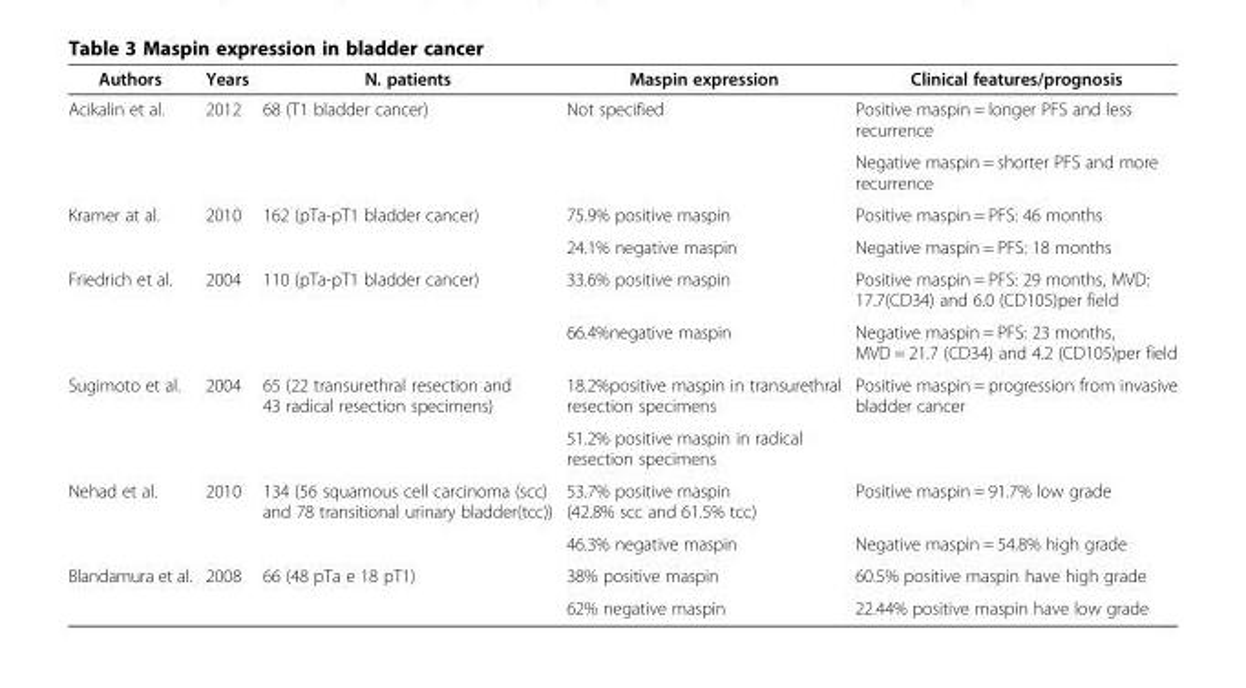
<table><thead><tr><td>Authors</td><td>Years</td><td>N. patients</td><td>Maspin expression</td><td>Clinical features/prognosis</td></tr></thead><tbody><tr><td rowspan="2">Acikalin et al.</td><td>2012</td><td>68 (T1 bladder cancer)</td><td>Not specified</td><td>Positive maspin = longer PFS and less recurrence</td></tr><tr><td></td><td></td><td></td><td>Negative maspin = shorter PFS and more recurrence</td></tr><tr><td rowspan="2">Kramer at al.</td><td>2010</td><td>162 (pTa-pT1 bladder cancer)</td><td>75.9% positive maspin</td><td>Positive maspin = PFS: 46 months</td></tr><tr><td></td><td></td><td>24.1% negative maspin</td><td>Negative maspin = PFS: 18 months</td></tr><tr><td rowspan="2">Friedrich et al.</td><td>2004</td><td>110 (pTa-pT1 bladder cancer)</td><td>33.6% positive maspin</td><td>Positive maspin = PFS: 29 months, MVD: 17.7(CD34) and 6.0 (CD105)per field</td></tr><tr><td></td><td></td><td>66.4%negative maspin</td><td>Negative maspin = PFS: 23 months, MVD = 21.7 (CD34) and 4.2 (CD105)per field</td></tr><tr><td rowspan="2">Sugimoto et al.</td><td>2004</td><td>65 (22 transurethral resection and 43 radical resection specimens)</td><td>18.2%positive maspin in transurethral resection specimens</td><td>Positive maspin = progression from invasive bladder cancer</td></tr><tr><td></td><td></td><td>51.2% positive maspin in radical resection specimens</td><td></td></tr><tr><td rowspan="2">Nehad et al.</td><td>2010</td><td>134 (56 squamous cell carcinoma (scc) and 78 transitional urinary bladder(tcc))</td><td>53.7% positive maspin (42.8% scc and 61.5% tcc)</td><td>Positive maspin = 91.7% low grade</td></tr><tr><td></td><td></td><td>46.3% negative maspin</td><td>Negative maspin = 54.8% high grade</td></tr><tr><td rowspan="2">Blandamura et al.</td><td>2008</td><td>66 (48 pTa e 18 pT1)</td><td>38% positive maspin</td><td>60.5% positive maspin have high grade</td></tr><tr><td></td><td></td><td>62% negative maspin</td><td>22.44% positive maspin have low grade</td></tr></tbody></table>